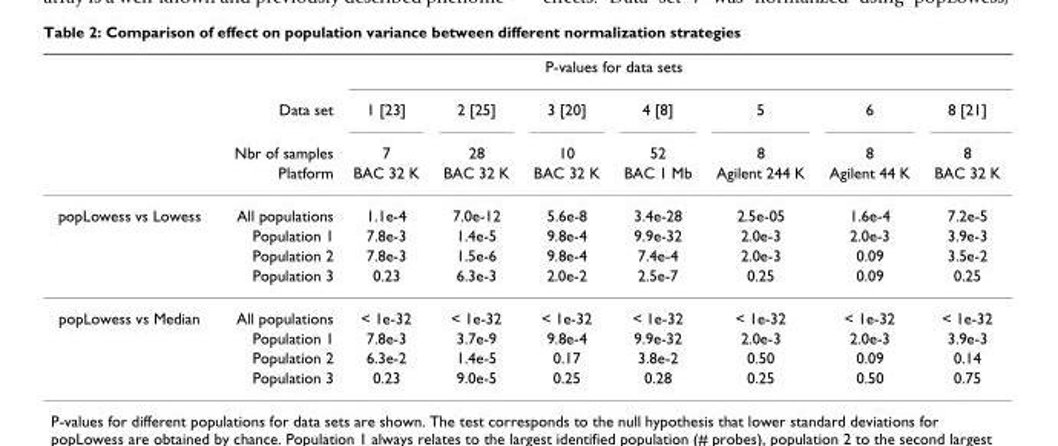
<table><thead><tr><td rowspan="4"></td><td colspan="8">P-values for data sets</td></tr><tr><td rowspan="3">Data set Nbr of samples Platform</td><td rowspan="3">1 [23] 7 BAC 32 K</td><td rowspan="3">2 [25] 28 BAC 32 K</td><td rowspan="3">3 [20] 10 BAC 32 K</td><td rowspan="3">4 [8] 52 BAC 1 Mb</td><td rowspan="3">5 8 Agilent 244 K</td><td rowspan="3">6 8 Agilent 44 K</td><td rowspan="3">8 [21] 8 BAC 32 K</td></tr><tr></tr><tr></tr></thead><tbody><tr><td rowspan="4">popLowess vs Lowess</td><td>All populations</td><td>1.1e-4</td><td>7.0e-12</td><td>5.6e-8</td><td>3.4e-28</td><td>2.5e-05</td><td>1.6e-4</td><td>7.2e-5</td></tr><tr><td>Population 1</td><td>7.8e-3</td><td>1.4e-5</td><td>9.8e-4</td><td>9.9e-32</td><td>2.0e-3</td><td>2.0e-3</td><td>3.9e-3</td></tr><tr><td>Population 2</td><td>7.8e-3</td><td>1.5e-6</td><td>9.8e-4</td><td>7.4e-4</td><td>2.0e-3</td><td>0.09</td><td>3.5e-2</td></tr><tr><td>Population 3</td><td>0.23</td><td>6.3e-3</td><td>2.0e-2</td><td>2.5e-7</td><td>0.25</td><td>0.09</td><td>0.25</td></tr><tr><td rowspan="4">popLowess vs Median</td><td>All populations</td><td>&lt; 1e-32</td><td>&lt; 1e-32</td><td>&lt; 1e-32</td><td>&lt; 1e-32</td><td>&lt; 1e-32</td><td>&lt; 1e-32</td><td>&lt; 1e-32</td></tr><tr><td>Population 1</td><td>7.8e-3</td><td>3.7e-9</td><td>9.8e-4</td><td>9.9e-32</td><td>2.0e-3</td><td>2.0e-3</td><td>3.9e-3</td></tr><tr><td>Population 2</td><td>6.3e-2</td><td>1.4e-5</td><td>0.17</td><td>3.8e-2</td><td>0.50</td><td>0.09</td><td>0.14</td></tr><tr><td>Population 3</td><td>0.23</td><td>9.0e-5</td><td>0.25</td><td>0.28</td><td>0.25</td><td>0.50</td><td>0.75</td></tr></tbody></table>